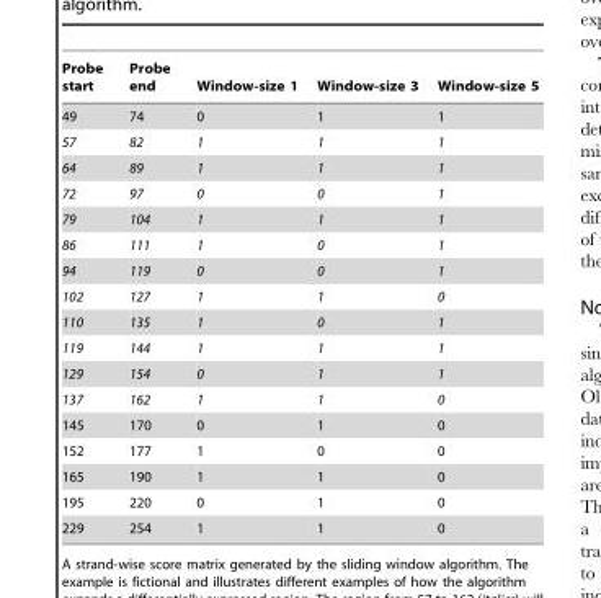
<table><thead><tr><td>Probe start</td><td>Probe end</td><td>Window-size 1</td><td>Window-size 3</td><td>Window-size 5</td></tr></thead><tbody><tr><td>49</td><td>74</td><td>0</td><td>1</td><td>1</td></tr><tr><td>57</td><td>82</td><td>1</td><td>1</td><td>1</td></tr><tr><td>64</td><td>89</td><td>1</td><td>1</td><td>1</td></tr><tr><td>72</td><td>97</td><td>0</td><td>0</td><td>1</td></tr><tr><td>79</td><td>104</td><td>1</td><td>1</td><td>1</td></tr><tr><td>86</td><td>111</td><td>1</td><td>0</td><td>1</td></tr><tr><td>94</td><td>119</td><td>0</td><td>0</td><td>1</td></tr><tr><td>102</td><td>127</td><td>1</td><td>1</td><td>0</td></tr><tr><td>110</td><td>135</td><td>1</td><td>0</td><td>1</td></tr><tr><td>119</td><td>144</td><td>1</td><td>1</td><td>1</td></tr><tr><td>129</td><td>154</td><td>0</td><td>1</td><td>1</td></tr><tr><td>137</td><td>162</td><td>1</td><td>1</td><td>0</td></tr><tr><td>145</td><td>170</td><td>0</td><td>1</td><td>0</td></tr><tr><td>152</td><td>177</td><td>1</td><td>0</td><td>0</td></tr><tr><td>165</td><td>190</td><td>1</td><td>1</td><td>0</td></tr><tr><td>195</td><td>220</td><td>0</td><td>1</td><td>0</td></tr><tr><td>229</td><td>254</td><td>1</td><td>1</td><td>0</td></tr></tbody></table>